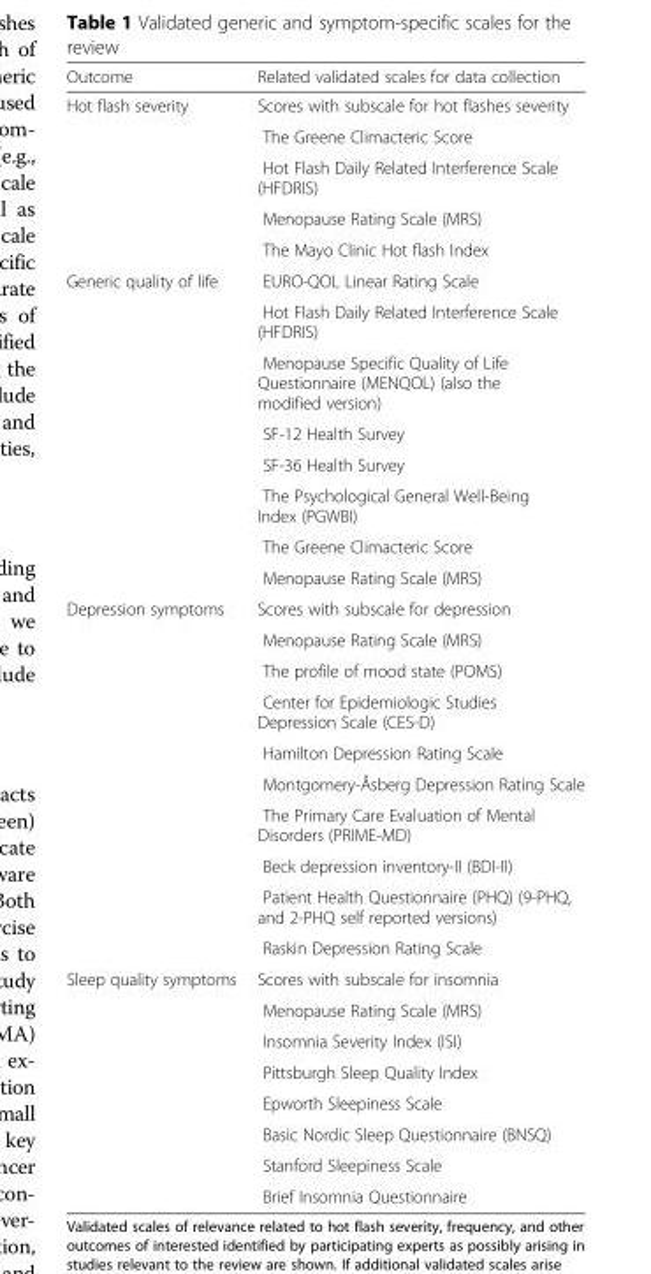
<table><thead><tr><td>Outcome</td><td>Related validated scales for data collection</td></tr></thead><tbody><tr><td rowspan="5">Hot flash severity</td><td>Scores with subscale for hot flashes severity</td></tr><tr><td>The Greene Climacteric Score</td></tr><tr><td>Hot Flash Daily Related Interference Scale (HFDRIS)</td></tr><tr><td>Menopause Rating Scale (MRS)</td></tr><tr><td>The Mayo Clinic Hot flash Index</td></tr><tr><td rowspan="8">Generic quality of life</td><td>EURO-QOL Linear Rating Scale</td></tr><tr><td>Hot Flash Daily Related Interference Scale (HFDRIS)</td></tr><tr><td>Menopause Specific Quality of Life Questionnaire (MENQOL) (also the modified version)</td></tr><tr><td>SF-12 Health Survey</td></tr><tr><td>SF-36 Health Survey</td></tr><tr><td>The Psychological General Well-Being Index (PGWBI)</td></tr><tr><td>The Greene Climacteric Score</td></tr><tr><td>Menopause Rating Scale (MRS)</td></tr><tr><td rowspan="10">Depression symptoms</td><td>Scores with subscale for depression</td></tr><tr><td>Menopause Rating Scale (MRS)</td></tr><tr><td>The profile of mood state (POMS)</td></tr><tr><td>Center for Epidemiologic Studies Depression Scale (CES-D)</td></tr><tr><td>Hamilton Depression Rating Scale</td></tr><tr><td>Montgomery-Åsberg Depression Rating Scale</td></tr><tr><td>The Primary Care Evaluation of Mental Disorders (PRIME-MD)</td></tr><tr><td>Beck depression inventory-II (BDI-II)</td></tr><tr><td>Patient Health Questionnaire (PHQ) (9-PHQ, and 2-PHQ self reported versions)</td></tr><tr><td>Raskin Depression Rating Scale</td></tr><tr><td rowspan="8">Sleep quality symptoms</td><td>Scores with subscale for insomnia</td></tr><tr><td>Menopause Rating Scale (MRS)</td></tr><tr><td>Insomnia Severity Index (ISI)</td></tr><tr><td>Pittsburgh Sleep Quality Index</td></tr><tr><td>Epworth Sleepiness Scale</td></tr><tr><td>Basic Nordic Sleep Questionnaire (BNSQ)</td></tr><tr><td>Stanford Sleepiness Scale</td></tr><tr><td>Brief Insomnia Questionnaire</td></tr></tbody></table>